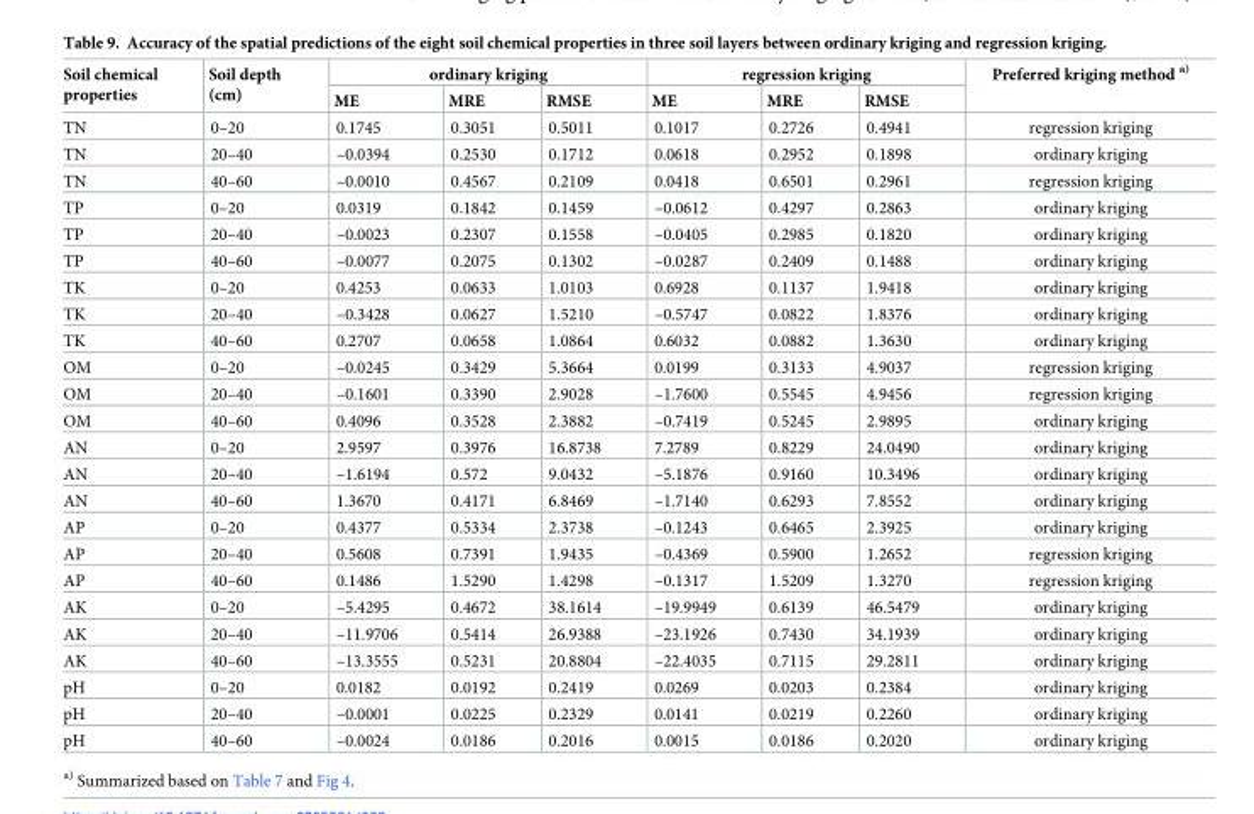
<table><thead><tr><td rowspan="2">Soil chemical properties</td><td rowspan="2">Soil depth (cm)</td><td colspan="3">ordinary kriging</td><td colspan="3">regression kriging</td><td rowspan="2">Preferred kriging method <sup>a)</sup></td></tr><tr><td>ME</td><td>MRE</td><td>RMSE</td><td>ME</td><td>MRE</td><td>RMSE</td></tr></thead><tbody><tr><td>TN</td><td>0–20</td><td>0.1745</td><td>0.3051</td><td>0.5011</td><td>0.1017</td><td>0.2726</td><td>0.4941</td><td>regression kriging</td></tr><tr><td>TN</td><td>20–40</td><td>–0.0394</td><td>0.2530</td><td>0.1712</td><td>0.0618</td><td>0.2952</td><td>0.1898</td><td>ordinary kriging</td></tr><tr><td>TN</td><td>40–60</td><td>–0.0010</td><td>0.4567</td><td>0.2109</td><td>0.0418</td><td>0.6501</td><td>0.2961</td><td>regression kriging</td></tr><tr><td>TP</td><td>0–20</td><td>0.0319</td><td>0.1842</td><td>0.1459</td><td>–0.0612</td><td>0.4297</td><td>0.2863</td><td>ordinary kriging</td></tr><tr><td>TP</td><td>20–40</td><td>–0.0023</td><td>0.2307</td><td>0.1558</td><td>–0.0405</td><td>0.2985</td><td>0.1820</td><td>ordinary kriging</td></tr><tr><td>TP</td><td>40–60</td><td>–0.0077</td><td>0.2075</td><td>0.1302</td><td>–0.0287</td><td>0.2409</td><td>0.1488</td><td>ordinary kriging</td></tr><tr><td>TK</td><td>0–20</td><td>0.4253</td><td>0.0633</td><td>1.0103</td><td>0.6928</td><td>0.1137</td><td>1.9418</td><td>ordinary kriging</td></tr><tr><td>TK</td><td>20–40</td><td>–0.3428</td><td>0.0627</td><td>1.5210</td><td>–0.5747</td><td>0.0822</td><td>1.8376</td><td>ordinary kriging</td></tr><tr><td>TK</td><td>40–60</td><td>0.2707</td><td>0.0658</td><td>1.0864</td><td>0.6032</td><td>0.0882</td><td>1.3630</td><td>ordinary kriging</td></tr><tr><td>OM</td><td>0–20</td><td>–0.0245</td><td>0.3429</td><td>5.3664</td><td>0.0199</td><td>0.3133</td><td>4.9037</td><td>regression kriging</td></tr><tr><td>OM</td><td>20–40</td><td>–0.1601</td><td>0.3390</td><td>2.9028</td><td>–1.7600</td><td>0.5545</td><td>4.9456</td><td>regression kriging</td></tr><tr><td>OM</td><td>40–60</td><td>0.4096</td><td>0.3528</td><td>2.3882</td><td>–0.7419</td><td>0.5245</td><td>2.9895</td><td>ordinary kriging</td></tr><tr><td>AN</td><td>0–20</td><td>2.9597</td><td>0.3976</td><td>16.8738</td><td>7.2789</td><td>0.8229</td><td>24.0490</td><td>ordinary kriging</td></tr><tr><td>AN</td><td>20–40</td><td>–1.6194</td><td>0.572</td><td>9.0432</td><td>–5.1876</td><td>0.9160</td><td>10.3496</td><td>ordinary kriging</td></tr><tr><td>AN</td><td>40–60</td><td>1.3670</td><td>0.4171</td><td>6.8469</td><td>–1.7140</td><td>0.6293</td><td>7.8552</td><td>ordinary kriging</td></tr><tr><td>AP</td><td>0–20</td><td>0.4377</td><td>0.5334</td><td>2.3738</td><td>–0.1243</td><td>0.6465</td><td>2.3925</td><td>ordinary kriging</td></tr><tr><td>AP</td><td>20–40</td><td>0.5608</td><td>0.7391</td><td>1.9435</td><td>–0.4369</td><td>0.5900</td><td>1.2652</td><td>regression kriging</td></tr><tr><td>AP</td><td>40–60</td><td>0.1486</td><td>1.5290</td><td>1.4298</td><td>–0.1317</td><td>1.5209</td><td>1.3270</td><td>regression kriging</td></tr><tr><td>AK</td><td>0–20</td><td>–5.4295</td><td>0.4672</td><td>38.1614</td><td>–19.9949</td><td>0.6139</td><td>46.5479</td><td>ordinary kriging</td></tr><tr><td>AK</td><td>20–40</td><td>–11.9706</td><td>0.5414</td><td>26.9388</td><td>–23.1926</td><td>0.7430</td><td>34.1939</td><td>ordinary kriging</td></tr><tr><td>AK</td><td>40–60</td><td>–13.3555</td><td>0.5231</td><td>20.8804</td><td>–22.4035</td><td>0.7115</td><td>29.2811</td><td>ordinary kriging</td></tr><tr><td>pH</td><td>0–20</td><td>0.0182</td><td>0.0192</td><td>0.2419</td><td>0.0269</td><td>0.0203</td><td>0.2384</td><td>ordinary kriging</td></tr><tr><td>pH</td><td>20–40</td><td>–0.0001</td><td>0.0225</td><td>0.2329</td><td>0.0141</td><td>0.0219</td><td>0.2260</td><td>ordinary kriging</td></tr><tr><td>pH</td><td>40–60</td><td>–0.0024</td><td>0.0186</td><td>0.2016</td><td>0.0015</td><td>0.0186</td><td>0.2020</td><td>ordinary kriging</td></tr></tbody></table>